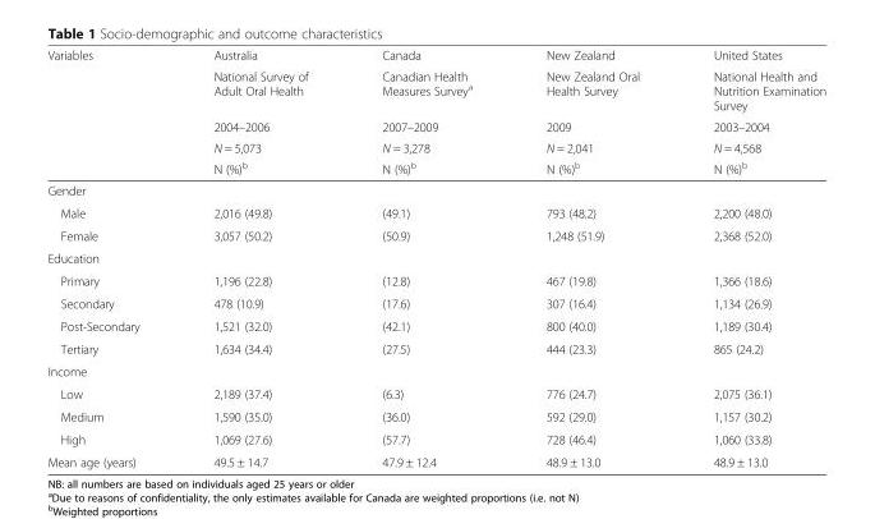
<table><thead><tr><td rowspan="5">Variables</td><td rowspan="5">Australia National Survey of Adult Oral Health 2004–2006 N = 5,073 N (%)b</td><td rowspan="5">Canada Canadian Health Measures Surveya 2007–2009 N = 3,278 N (%)b</td><td rowspan="5">New Zealand New Zealand Oral Health Survey 2009 N = 2,041 N (%)b</td><td rowspan="5">United States National Health and Nutrition Examination Survey 2003–2004 N = 4,568 N (%)b</td></tr><tr></tr><tr></tr><tr></tr><tr></tr></thead><tbody><tr><td colspan="5">Gender</td></tr><tr><td>Male</td><td>2,016 (49.8)</td><td>(49.1)</td><td>793 (48.2)</td><td>2,200 (48.0)</td></tr><tr><td>Female</td><td>3,057 (50.2)</td><td>(50.9)</td><td>1,248 (51.9)</td><td>2,368 (52.0)</td></tr><tr><td colspan="5">Education</td></tr><tr><td>Primary</td><td>1,196 (22.8)</td><td>(12.8)</td><td>467 (19.8)</td><td>1,366 (18.6)</td></tr><tr><td>Secondary</td><td>478 (10.9)</td><td>(17.6)</td><td>307 (16.4)</td><td>1,134 (26.9)</td></tr><tr><td>Post-Secondary</td><td>1,521 (32.0)</td><td>(42.1)</td><td>800 (40.0)</td><td>1,189 (30.4)</td></tr><tr><td>Tertiary</td><td>1,634 (34.4)</td><td>(27.5)</td><td>444 (23.3)</td><td>865 (24.2)</td></tr><tr><td colspan="5">Income</td></tr><tr><td>Low</td><td>2,189 (37.4)</td><td>(6.3)</td><td>776 (24.7)</td><td>2,075 (36.1)</td></tr><tr><td>Medium</td><td>1,590 (35.0)</td><td>(36.0)</td><td>592 (29.0)</td><td>1,157 (30.2)</td></tr><tr><td>High</td><td>1,069 (27.6)</td><td>(57.7)</td><td>728 (46.4)</td><td>1,060 (33.8)</td></tr><tr><td>Mean age (years)</td><td>49.5 ± 14.7</td><td>47.9 ± 12.4</td><td>48.9 ± 13.0</td><td>48.9 ± 13.0</td></tr></tbody></table>